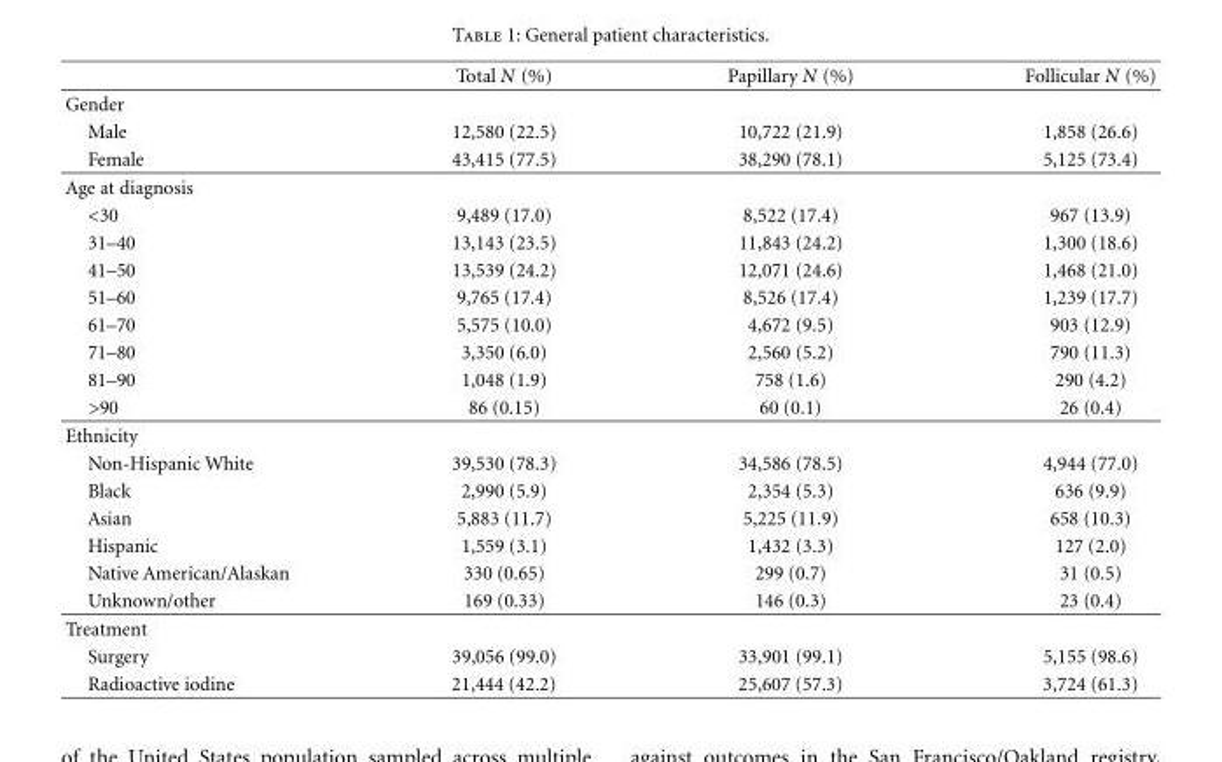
<table><thead><tr><td></td><td>Total N (%)</td><td>Papillary N (%)</td><td>Follicular N (%)</td></tr></thead><tbody><tr><td colspan="4">Gender</td></tr><tr><td>Male</td><td>12,580 (22.5)</td><td>10,722 (21.9)</td><td>1,858 (26.6)</td></tr><tr><td>Female</td><td>43,415 (77.5)</td><td>38,290 (78.1)</td><td>5,125 (73.4)</td></tr><tr><td colspan="4">Age at diagnosis</td></tr><tr><td>&lt;30</td><td>9,489 (17.0)</td><td>8,522 (17.4)</td><td>967 (13.9)</td></tr><tr><td>31–40</td><td>13,143 (23.5)</td><td>11,843 (24.2)</td><td>1,300 (18.6)</td></tr><tr><td>41–50</td><td>13,539 (24.2)</td><td>12,071 (24.6)</td><td>1,468 (21.0)</td></tr><tr><td>51–60</td><td>9,765 (17.4)</td><td>8,526 (17.4)</td><td>1,239 (17.7)</td></tr><tr><td>61–70</td><td>5,575 (10.0)</td><td>4,672 (9.5)</td><td>903 (12.9)</td></tr><tr><td>71–80</td><td>3,350 (6.0)</td><td>2,560 (5.2)</td><td>790 (11.3)</td></tr><tr><td>81–90</td><td>1,048 (1.9)</td><td>758 (1.6)</td><td>290 (4.2)</td></tr><tr><td>&gt;90</td><td>86 (0.15)</td><td>60 (0.1)</td><td>26 (0.4)</td></tr><tr><td colspan="4">Ethnicity</td></tr><tr><td>Non-Hispanic White</td><td>39,530 (78.3)</td><td>34,586 (78.5)</td><td>4,944 (77.0)</td></tr><tr><td>Black</td><td>2,990 (5.9)</td><td>2,354 (5.3)</td><td>636 (9.9)</td></tr><tr><td>Asian</td><td>5,883 (11.7)</td><td>5,225 (11.9)</td><td>658 (10.3)</td></tr><tr><td>Hispanic</td><td>1,559 (3.1)</td><td>1,432 (3.3)</td><td>127 (2.0)</td></tr><tr><td>Native American/Alaskan</td><td>330 (0.65)</td><td>299 (0.7)</td><td>31 (0.5)</td></tr><tr><td>Unknown/other</td><td>169 (0.33)</td><td>146 (0.3)</td><td>23 (0.4)</td></tr><tr><td colspan="4">Treatment</td></tr><tr><td>Surgery</td><td>39,056 (99.0)</td><td>33,901 (99.1)</td><td>5,155 (98.6)</td></tr><tr><td>Radioactive iodine</td><td>21,444 (42.2)</td><td>25,607 (57.3)</td><td>3,724 (61.3)</td></tr></tbody></table>